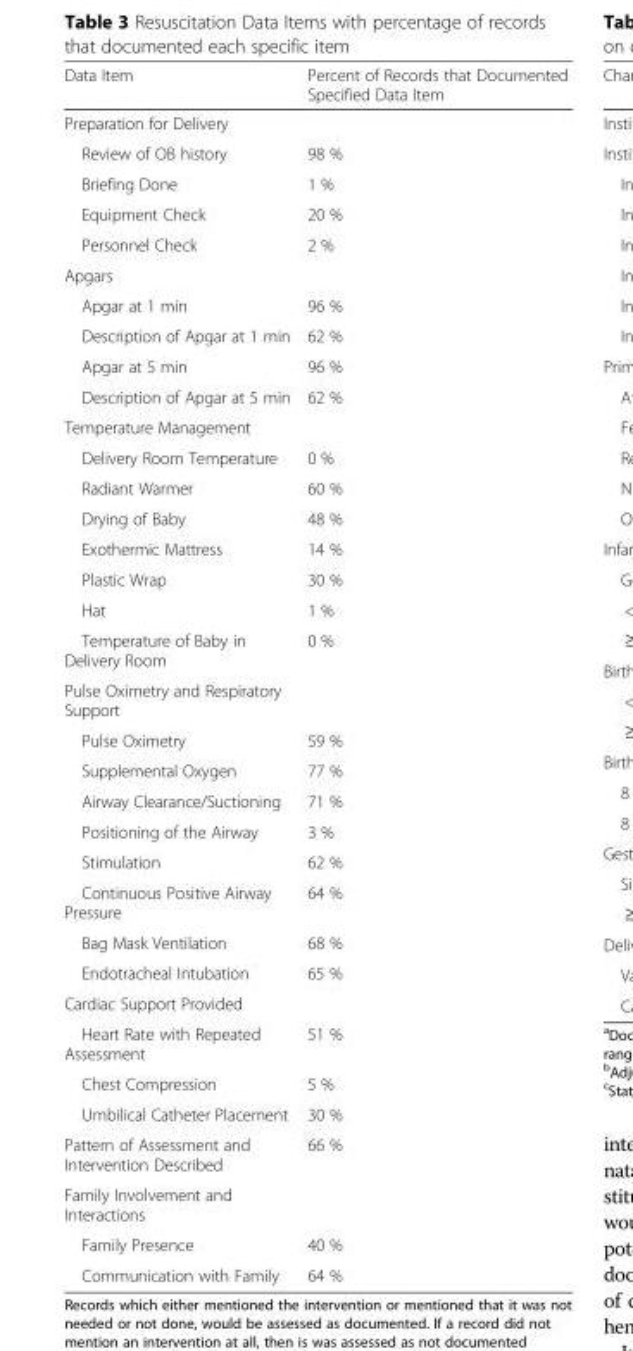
<table><thead><tr><td>Data Item</td><td>Percent of Records that Documented Specified Data Item</td></tr></thead><tbody><tr><td colspan="2">Preparation for Delivery</td></tr><tr><td>Review of OB history</td><td>98 %</td></tr><tr><td>Briefing Done</td><td>1 %</td></tr><tr><td>Equipment Check</td><td>20 %</td></tr><tr><td>Personnel Check</td><td>2 %</td></tr><tr><td colspan="2">Apgars</td></tr><tr><td>Apgar at 1 min</td><td>96 %</td></tr><tr><td>Description of Apgar at 1 min</td><td>62 %</td></tr><tr><td>Apgar at 5 min</td><td>96 %</td></tr><tr><td>Description of Apgar at 5 min</td><td>62 %</td></tr><tr><td colspan="2">Temperature Management</td></tr><tr><td>Delivery Room Temperature</td><td>0 %</td></tr><tr><td>Radiant Warmer</td><td>60 %</td></tr><tr><td>Drying of Baby</td><td>48 %</td></tr><tr><td>Exothermic Mattress</td><td>14 %</td></tr><tr><td>Plastic Wrap</td><td>30 %</td></tr><tr><td>Hat</td><td>1 %</td></tr><tr><td>Temperature of Baby in Delivery Room</td><td>0 %</td></tr><tr><td colspan="2">Pulse Oximetry and Respiratory Support</td></tr><tr><td>Pulse Oximetry</td><td>59 %</td></tr><tr><td>Supplemental Oxygen</td><td>77 %</td></tr><tr><td>Airway Clearance/Suctioning</td><td>71 %</td></tr><tr><td>Positioning of the Airway</td><td>3 %</td></tr><tr><td>Stimulation</td><td>62 %</td></tr><tr><td>Continuous Positive Airway Pressure</td><td>64 %</td></tr><tr><td>Bag Mask Ventilation</td><td>68 %</td></tr><tr><td>Endotracheal Intubation</td><td>65 %</td></tr><tr><td colspan="2">Cardiac Support Provided</td></tr><tr><td>Heart Rate with Repeated Assessment</td><td>51 %</td></tr><tr><td>Chest Compression</td><td>5 %</td></tr><tr><td>Umbilical Catheter Placement</td><td>30 %</td></tr><tr><td>Pattern of Assessment and Intervention Described</td><td>66 %</td></tr><tr><td colspan="2">Family Involvement and Interactions</td></tr><tr><td>Family Presence</td><td>40 %</td></tr><tr><td>Communication with Family</td><td>64 %</td></tr></tbody></table>